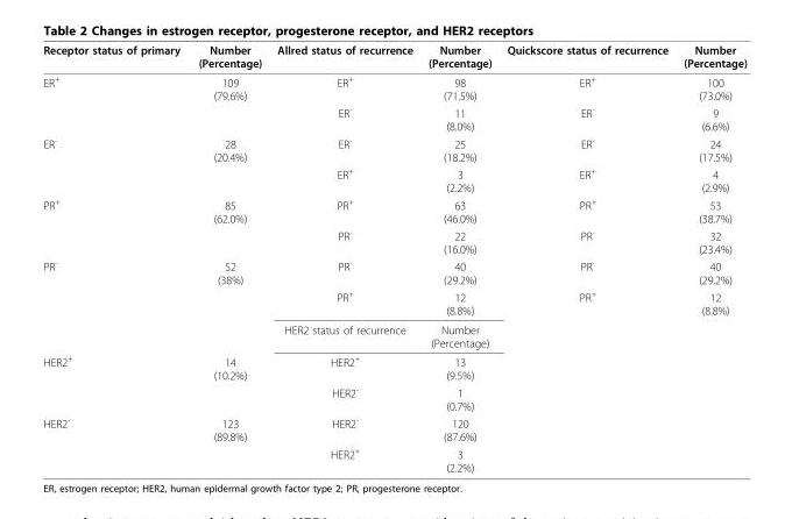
<table><thead><tr><td>Receptor status of primary</td><td>Number (Percentage)</td><td>Allred status of recurrence</td><td>Number (Percentage)</td><td>Quickscore status of recurrence</td><td>Number (Percentage)</td></tr></thead><tbody><tr><td rowspan="2">ER<sup>+</sup></td><td>109 (79.6%)</td><td>ER<sup>+</sup></td><td>98 (71.5%)</td><td>ER<sup>+</sup></td><td>100 (73.0%)</td></tr><tr><td></td><td>ER<sup>-</sup></td><td>11 (8.0%)</td><td>ER<sup>-</sup></td><td>9 (6.6%)</td></tr><tr><td rowspan="2">ER<sup>-</sup></td><td>28 (20.4%)</td><td>ER<sup>-</sup></td><td>25 (18.2%)</td><td>ER<sup>-</sup></td><td>24 (17.5%)</td></tr><tr><td></td><td>ER<sup>+</sup></td><td>3 (2.2%)</td><td>ER<sup>+</sup></td><td>4 (2.9%)</td></tr><tr><td rowspan="2">PR<sup>+</sup></td><td>85 (62.0%)</td><td>PR<sup>+</sup></td><td>63 (46.0%)</td><td>PR<sup>+</sup></td><td>53 (38.7%)</td></tr><tr><td></td><td>PR<sup>-</sup></td><td>22 (16.0%)</td><td>PR<sup>-</sup></td><td>32 (23.4%)</td></tr><tr><td rowspan="3">PR<sup>-</sup></td><td>52 (38%)</td><td>PR<sup>-</sup></td><td>40 (29.2%)</td><td>PR<sup>-</sup></td><td>40 (29.2%)</td></tr><tr><td></td><td>PR<sup>+</sup></td><td>12 (8.8%)</td><td>PR<sup>+</sup></td><td>12 (8.8%)</td></tr><tr><td></td><td>HER2 status of recurrence</td><td>Number (Percentage)</td><td></td><td></td></tr><tr><td rowspan="2">HER2<sup>+</sup></td><td>14 (10.2%)</td><td>HER2<sup>+</sup></td><td>13 (9.5%)</td><td></td><td></td></tr><tr><td></td><td>HER2<sup>-</sup></td><td>1 (0.7%)</td><td></td><td></td></tr><tr><td rowspan="2">HER2<sup>-</sup></td><td>123 (89.8%)</td><td>HER2<sup>-</sup></td><td>120 (87.6%)</td><td></td><td></td></tr><tr><td></td><td>HER2<sup>+</sup></td><td>3 (2.2%)</td><td></td><td></td></tr></tbody></table>